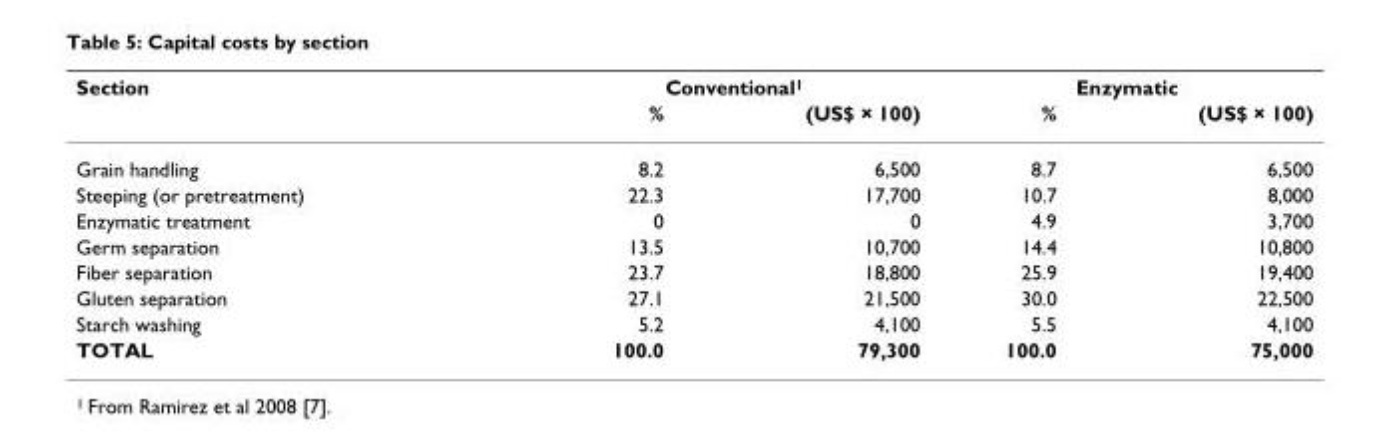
<table><thead><tr><td rowspan="2">Section</td><td colspan="2">Conventional<sup>1</sup></td><td colspan="2">Enzymatic</td></tr><tr><td>%</td><td>(US$ × 100)</td><td>%</td><td>(US$ × 100)</td></tr></thead><tbody><tr><td>Grain handling</td><td>8.2</td><td>6,500</td><td>8.7</td><td>6,500</td></tr><tr><td>Steeping (or pretreatment)</td><td>22.3</td><td>17,700</td><td>10.7</td><td>8,000</td></tr><tr><td>Enzymatic treatment</td><td>0</td><td>0</td><td>4.9</td><td>3,700</td></tr><tr><td>Germ separation</td><td>13.5</td><td>10,700</td><td>14.4</td><td>10,800</td></tr><tr><td>Fiber separation</td><td>23.7</td><td>18,800</td><td>25.9</td><td>19,400</td></tr><tr><td>Gluten separation</td><td>27.1</td><td>21,500</td><td>30.0</td><td>22,500</td></tr><tr><td>Starch washing</td><td>5.2</td><td>4,100</td><td>5.5</td><td>4,100</td></tr><tr><td>TOTAL</td><td>100.0</td><td>79,300</td><td>100.0</td><td>75,000</td></tr></tbody></table>